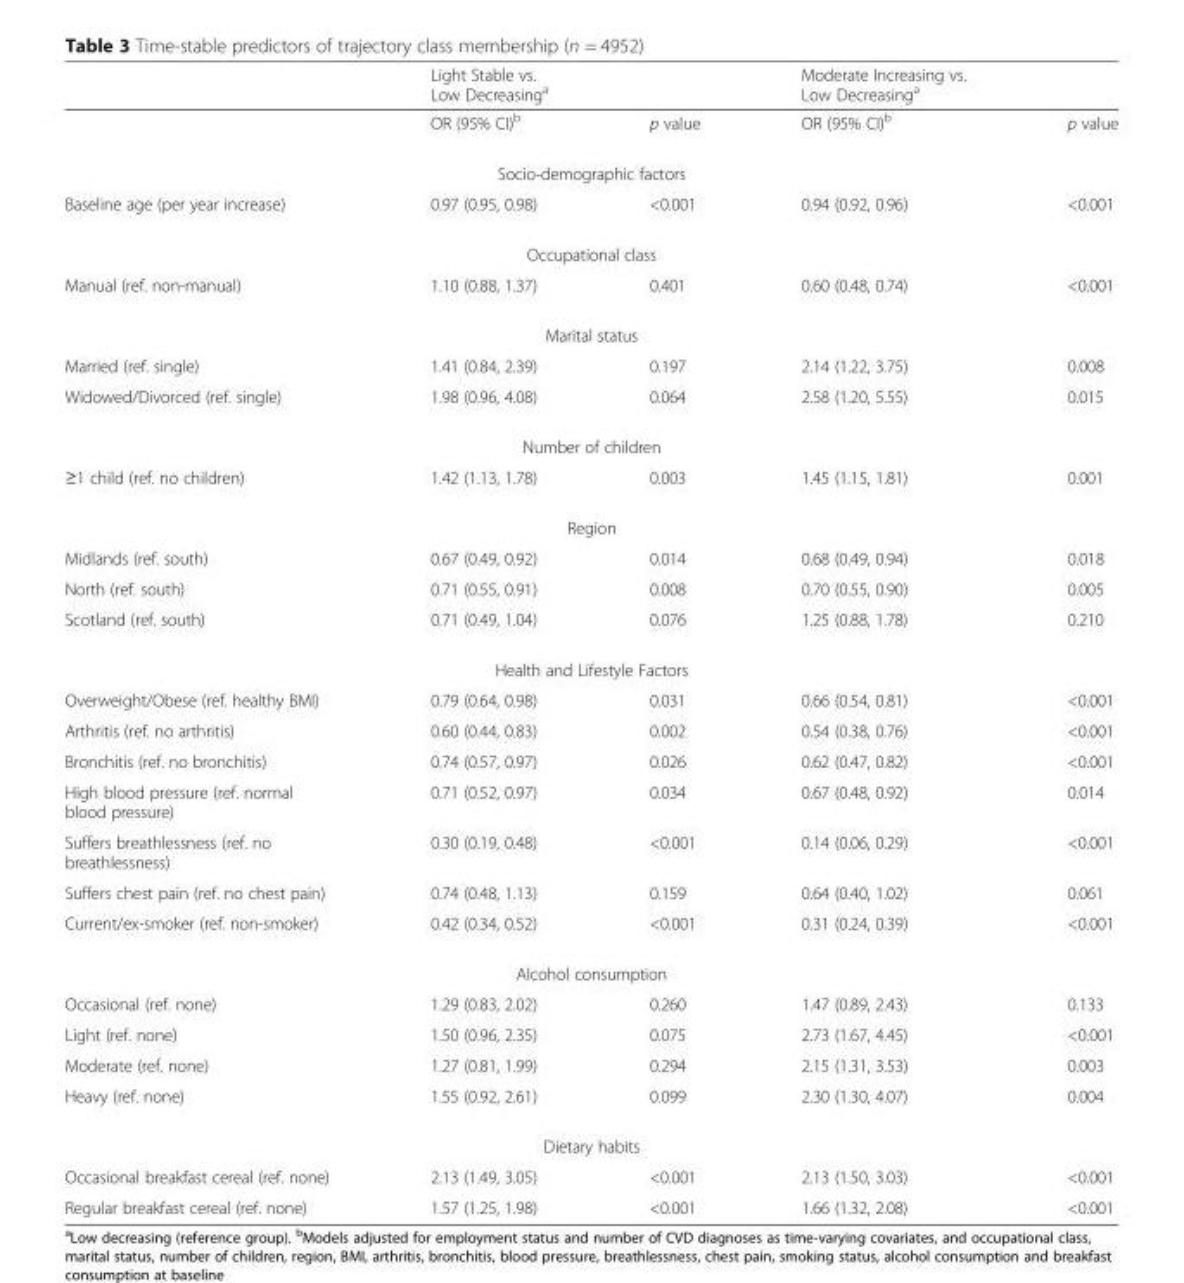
<table><thead><tr><td></td><td>Light Stable vs. Low Decreasing<sup>a</sup></td><td></td><td>Moderate Increasing vs. Low Decreasing<sup>a</sup></td><td></td></tr></thead><tbody><tr><td></td><td>OR (95% CI)<sup>b</sup></td><td>p value</td><td>OR (95% CI)<sup>b</sup></td><td>p value</td></tr><tr><td colspan="5">Socio-demographic factors</td></tr><tr><td>Baseline age (per year increase)</td><td>0.97 (0.95, 0.98)</td><td>&lt;0.001</td><td>0.94 (0.92, 0.96)</td><td>&lt;0.001</td></tr><tr><td colspan="5">Occupational class</td></tr><tr><td>Manual (ref. non-manual)</td><td>1.10 (0.88, 1.37)</td><td>0.401</td><td>0.60 (0.48, 0.74)</td><td>&lt;0.001</td></tr><tr><td colspan="5">Marital status</td></tr><tr><td>Married (ref. single)</td><td>1.41 (0.84, 2.39)</td><td>0.197</td><td>2.14 (1.22, 3.75)</td><td>0.008</td></tr><tr><td>Widowed/Divorced (ref. single)</td><td>1.98 (0.96, 4.08)</td><td>0.064</td><td>2.58 (1.20, 5.55)</td><td>0.015</td></tr><tr><td colspan="5">Number of children</td></tr><tr><td>≥1 child (ref. no children)</td><td>1.42 (1.13, 1.78)</td><td>0.003</td><td>1.45 (1.15, 1.81)</td><td>0.001</td></tr><tr><td colspan="5">Region</td></tr><tr><td>Midlands (ref. south)</td><td>0.67 (0.49, 0.92)</td><td>0.014</td><td>0.68 (0.49, 0.94)</td><td>0.018</td></tr><tr><td>North (ref. south)</td><td>0.71 (0.55, 0.91)</td><td>0.008</td><td>0.70 (0.55, 0.90)</td><td>0.005</td></tr><tr><td>Scotland (ref. south)</td><td>0.71 (0.49, 1.04)</td><td>0.076</td><td>1.25 (0.88, 1.78)</td><td>0.210</td></tr><tr><td colspan="5">Health and Lifestyle Factors</td></tr><tr><td>Overweight/Obese (ref. healthy BMI)</td><td>0.79 (0.64, 0.98)</td><td>0.031</td><td>0.66 (0.54, 0.81)</td><td>&lt;0.001</td></tr><tr><td>Arthritis (ref. no arthritis)</td><td>0.60 (0.44, 0.83)</td><td>0.002</td><td>0.54 (0.38, 0.76)</td><td>&lt;0.001</td></tr><tr><td>Bronchitis (ref. no bronchitis)</td><td>0.74 (0.57, 0.97)</td><td>0.026</td><td>0.62 (0.47, 0.82)</td><td>&lt;0.001</td></tr><tr><td>High blood pressure (ref. normal blood pressure)</td><td>0.71 (0.52, 0.97)</td><td>0.034</td><td>0.67 (0.48, 0.92)</td><td>0.014</td></tr><tr><td>Suffers breathlessness (ref. no breathlessness)</td><td>0.30 (0.19, 0.48)</td><td>&lt;0.001</td><td>0.14 (0.06, 0.29)</td><td>&lt;0.001</td></tr><tr><td>Suffers chest pain (ref. no chest pain)</td><td>0.74 (0.48, 1.13)</td><td>0.159</td><td>0.64 (0.40, 1.02)</td><td>0.061</td></tr><tr><td>Current/ex-smoker (ref. non-smoker)</td><td>0.42 (0.34, 0.52)</td><td>&lt;0.001</td><td>0.31 (0.24, 0.39)</td><td>&lt;0.001</td></tr><tr><td colspan="5">Alcohol consumption</td></tr><tr><td>Occasional (ref. none)</td><td>1.29 (0.83, 2.02)</td><td>0.260</td><td>1.47 (0.89, 2.43)</td><td>0.133</td></tr><tr><td>Light (ref. none)</td><td>1.50 (0.96, 2.35)</td><td>0.075</td><td>2.73 (1.67, 4.45)</td><td>&lt;0.001</td></tr><tr><td>Moderate (ref. none)</td><td>1.27 (0.81, 1.99)</td><td>0.294</td><td>2.15 (1.31, 3.53)</td><td>0.003</td></tr><tr><td>Heavy (ref. none)</td><td>1.55 (0.92, 2.61)</td><td>0.099</td><td>2.30 (1.30, 4.07)</td><td>0.004</td></tr><tr><td colspan="5">Dietary habits</td></tr><tr><td>Occasional breakfast cereal (ref. none)</td><td>2.13 (1.49, 3.05)</td><td>&lt;0.001</td><td>2.13 (1.50, 3.03)</td><td>&lt;0.001</td></tr><tr><td>Regular breakfast cereal (ref. none)</td><td>1.57 (1.25, 1.98)</td><td>&lt;0.001</td><td>1.66 (1.32, 2.08)</td><td>&lt;0.001</td></tr></tbody></table>